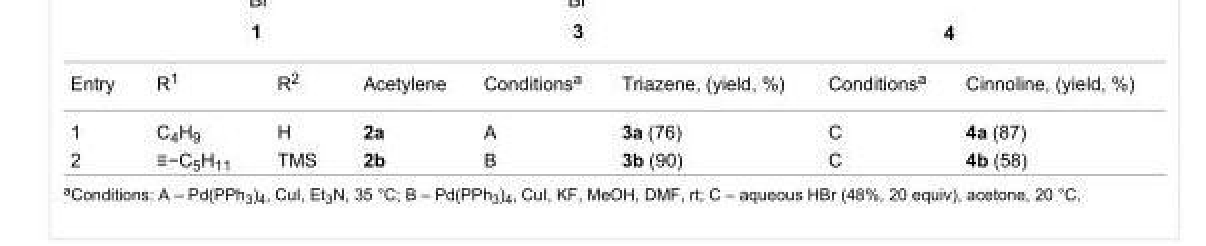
<table><tbody><tr><td>Entry</td><td>R<sup>1</sup></td><td>R<sup>2</sup></td><td>Acetylene</td><td>Conditions<sup>a</sup></td><td>Triazene, (yield, %)</td><td>Conditions<sup>a</sup></td><td>Cinnoline, (yield, %)</td></tr><tr><td>1</td><td>C<sub>4</sub>H<sub>9</sub></td><td>H</td><td>2a</td><td>A</td><td>3a (76)</td><td>C</td><td>4a (87)</td></tr><tr><td>2</td><td>≡−C<sub>5</sub>H<sub>11</sub></td><td>TMS</td><td>2b</td><td>B</td><td>3b (90)</td><td>C</td><td>4b (58)</td></tr></tbody></table>